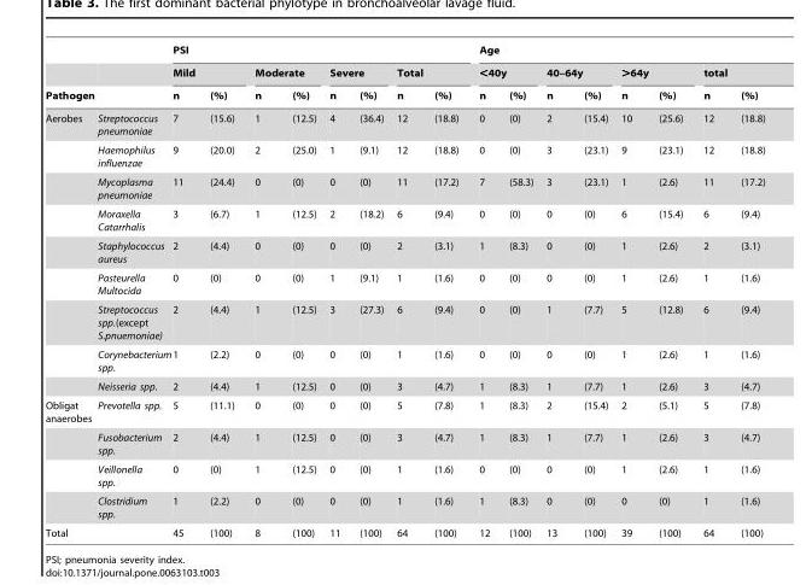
<table><thead><tr><td rowspan="2"></td><td rowspan="2"></td><td colspan="8">PSI</td><td colspan="8">Age</td></tr><tr><td colspan="2">Mild</td><td colspan="2">Moderate</td><td colspan="2">Severe</td><td colspan="2">Total</td><td colspan="2">&lt;40y</td><td colspan="2">40–64y</td><td colspan="2">&gt;64y</td><td colspan="2">total</td></tr><tr><td colspan="2">Pathogen</td><td>n</td><td>(%)</td><td>n</td><td>(%)</td><td>n</td><td>(%)</td><td>n</td><td>(%)</td><td>n</td><td>(%)</td><td>n</td><td>(%)</td><td>n</td><td>(%)</td><td>n</td><td>(%)</td></tr></thead><tbody><tr><td rowspan="9">Aerobes</td><td>Streptococcus pneumoniae</td><td>7</td><td>(15.6)</td><td>1</td><td>(12.5)</td><td>4</td><td>(36.4)</td><td>12</td><td>(18.8)</td><td>0</td><td>(0)</td><td>2</td><td>(15.4)</td><td>10</td><td>(25.6)</td><td>12</td><td>(18.8)</td></tr><tr><td>Haemophilus influenzae</td><td>9</td><td>(20.0)</td><td>2</td><td>(25.0)</td><td>1</td><td>(9.1)</td><td>12</td><td>(18.8)</td><td>0</td><td>(0)</td><td>3</td><td>(23.1)</td><td>9</td><td>(23.1)</td><td>12</td><td>(18.8)</td></tr><tr><td>Mycoplasma pneumoniae</td><td>11</td><td>(24.4)</td><td>0</td><td>(0)</td><td>0</td><td>(0)</td><td>11</td><td>(17.2)</td><td>7</td><td>(58.3)</td><td>3</td><td>(23.1)</td><td>1</td><td>(2.6)</td><td>11</td><td>(17.2)</td></tr><tr><td>Moraxella Catarrhalis</td><td>3</td><td>(6.7)</td><td>1</td><td>(12.5)</td><td>2</td><td>(18.2)</td><td>6</td><td>(9.4)</td><td>0</td><td>(0)</td><td>0</td><td>(0)</td><td>6</td><td>(15.4)</td><td>6</td><td>(9.4)</td></tr><tr><td>Staphylococcus aureus</td><td>2</td><td>(4.4)</td><td>0</td><td>(0)</td><td>0</td><td>(0)</td><td>2</td><td>(3.1)</td><td>1</td><td>(8.3)</td><td>0</td><td>(0)</td><td>1</td><td>(2.6)</td><td>2</td><td>(3.1)</td></tr><tr><td>Pasteurella Multocida</td><td>0</td><td>(0)</td><td>0</td><td>(0)</td><td>1</td><td>(9.1)</td><td>1</td><td>(1.6)</td><td>0</td><td>(0)</td><td>0</td><td>(0)</td><td>1</td><td>(2.6)</td><td>1</td><td>(1.6)</td></tr><tr><td>Streptococcus spp.(except S.pnuemoniae)</td><td>2</td><td>(4.4)</td><td>1</td><td>(12.5)</td><td>3</td><td>(27.3)</td><td>6</td><td>(9.4)</td><td>0</td><td>(0)</td><td>1</td><td>(7.7)</td><td>5</td><td>(12.8)</td><td>6</td><td>(9.4)</td></tr><tr><td>Corynebacterium spp.</td><td>1</td><td>(2.2)</td><td>0</td><td>(0)</td><td>0</td><td>(0)</td><td>1</td><td>(1.6)</td><td>0</td><td>(0)</td><td>0</td><td>(0)</td><td>1</td><td>(2.6)</td><td>1</td><td>(1.6)</td></tr><tr><td>Neisseria spp.</td><td>2</td><td>(4.4)</td><td>1</td><td>(12.5)</td><td>0</td><td>(0)</td><td>3</td><td>(4.7)</td><td>1</td><td>(8.3)</td><td>1</td><td>(7.7)</td><td>1</td><td>(2.6)</td><td>3</td><td>(4.7)</td></tr><tr><td rowspan="4">Obligat anaerobes</td><td>Prevotella spp.</td><td>5</td><td>(11.1)</td><td>0</td><td>(0)</td><td>0</td><td>(0)</td><td>5</td><td>(7.8)</td><td>1</td><td>(8.3)</td><td>2</td><td>(15.4)</td><td>2</td><td>(5.1)</td><td>5</td><td>(7.8)</td></tr><tr><td>Fusobacterium spp.</td><td>2</td><td>(4.4)</td><td>1</td><td>(12.5)</td><td>0</td><td>(0)</td><td>3</td><td>(4.7)</td><td>1</td><td>(8.3)</td><td>1</td><td>(7.7)</td><td>1</td><td>(2.6)</td><td>3</td><td>(4.7)</td></tr><tr><td>Veillonella spp.</td><td>0</td><td>(0)</td><td>1</td><td>(12.5)</td><td>0</td><td>(0)</td><td>1</td><td>(1.6)</td><td>0</td><td>(0)</td><td>0</td><td>(0)</td><td>1</td><td>(2.6)</td><td>1</td><td>(1.6)</td></tr><tr><td>Clostridium spp.</td><td>1</td><td>(2.2)</td><td>0</td><td>(0)</td><td>0</td><td>(0)</td><td>1</td><td>(1.6)</td><td>1</td><td>(8.3)</td><td>0</td><td>(0)</td><td>0</td><td>(0)</td><td>1</td><td>(1.6)</td></tr><tr><td>Total</td><td></td><td>45</td><td>(100)</td><td>8</td><td>(100)</td><td>11</td><td>(100)</td><td>64</td><td>(100)</td><td>12</td><td>(100)</td><td>13</td><td>(100)</td><td>39</td><td>(100)</td><td>64</td><td>(100)</td></tr></tbody></table>